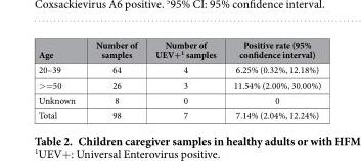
<table><thead><tr><td>Age</td><td>Number of samples</td><td>Number of UEV+<sup>1</sup> samples</td><td>Positive rate (95% confidence interval)</td></tr></thead><tbody><tr><td>20–39</td><td>64</td><td>4</td><td>6.25% (0.32%, 12.18%)</td></tr><tr><td>&gt; = 50</td><td>26</td><td>3</td><td>11.54% (2.00%, 30.00%)</td></tr><tr><td>Unknown</td><td>8</td><td>0</td><td>0</td></tr><tr><td>Total</td><td>98</td><td>7</td><td>7.14% (2.04%, 12.24%)</td></tr></tbody></table>